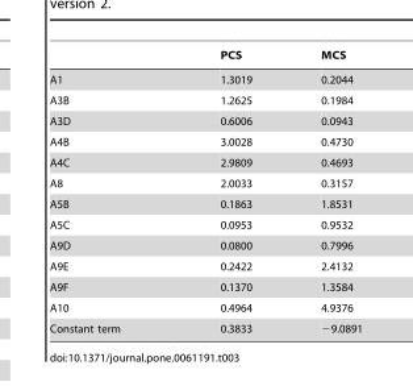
<table><thead><tr><td></td><td>PCS</td><td>MCS</td></tr></thead><tbody><tr><td>A1</td><td>1.3019</td><td>0.2044</td></tr><tr><td>A3B</td><td>1.2625</td><td>0.1984</td></tr><tr><td>A3D</td><td>0.6006</td><td>0.0943</td></tr><tr><td>A4B</td><td>3.0028</td><td>0.4730</td></tr><tr><td>A4C</td><td>2.9809</td><td>0.4693</td></tr><tr><td>A8</td><td>2.0033</td><td>0.3157</td></tr><tr><td>A5B</td><td>0.1863</td><td>1.8531</td></tr><tr><td>A5C</td><td>0.0953</td><td>0.9532</td></tr><tr><td>A9D</td><td>0.0800</td><td>0.7996</td></tr><tr><td>A9E</td><td>0.2422</td><td>2.4132</td></tr><tr><td>A9F</td><td>0.1370</td><td>1.3584</td></tr><tr><td>A10</td><td>0.4964</td><td>4.9376</td></tr><tr><td>Constant term</td><td>0.3833</td><td>−9.0891</td></tr></tbody></table>